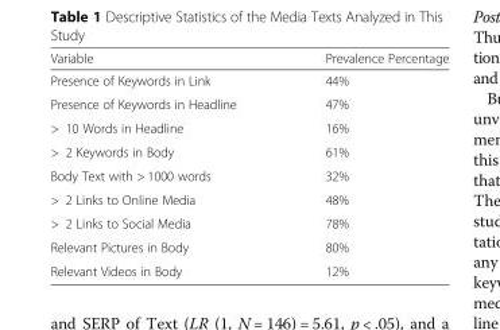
<table><thead><tr><td>Variable</td><td>Prevalence Percentage</td></tr></thead><tbody><tr><td>Presence of Keywords in Link</td><td>44%</td></tr><tr><td>Presence of Keywords in Headline</td><td>47%</td></tr><tr><td>&gt; 10 Words in Headline</td><td>16%</td></tr><tr><td>&gt; 2 Keywords in Body</td><td>61%</td></tr><tr><td>Body Text with &gt; 1000 words</td><td>32%</td></tr><tr><td>&gt; 2 Links to Online Media</td><td>48%</td></tr><tr><td>&gt; 2 Links to Social Media</td><td>78%</td></tr><tr><td>Relevant Pictures in Body</td><td>80%</td></tr><tr><td>Relevant Videos in Body</td><td>12%</td></tr></tbody></table>